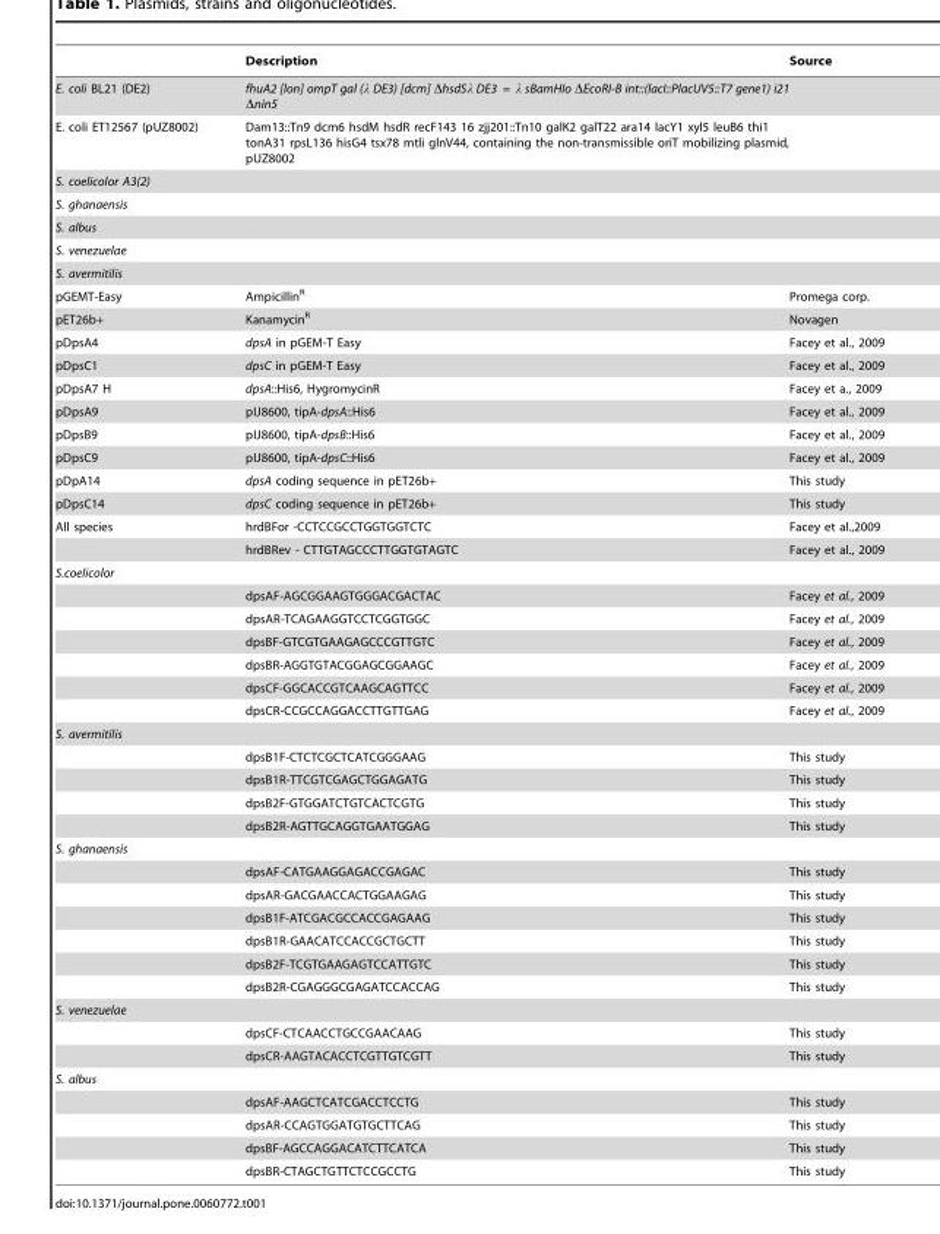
<table><thead><tr><td></td><td>Description</td><td>Source</td></tr></thead><tbody><tr><td>E. coli BL21 (DE2)</td><td>fhuA2 [lon] ompT gal (λ DE3) [dcm] ΔhsdSλ DE3 = λ sBamHIo ΔEcoRI-B int::(lacI::PlacUV5::T7 gene1) i21 Δnin5</td><td></td></tr><tr><td>E. coli ET12567 (pUZ8002)</td><td>Dam13::Tn9 dcm6 hsdM hsdR recF143 16 zjj201::Tn10 galK2 galT22 ara14 lacY1 xyl5 leuB6 thi1 tonA31 rpsL136 hisG4 tsx78 mtli glnV44, containing the non-transmissible oriT mobilizing plasmid, pUZ8002</td><td></td></tr><tr><td colspan="3">S. coelicolor A3(2)</td></tr><tr><td colspan="3">S. ghanaensis</td></tr><tr><td colspan="3">S. albus</td></tr><tr><td colspan="3">S. venezuelae</td></tr><tr><td colspan="3">S. avermitilis</td></tr><tr><td>pGEMT-Easy</td><td>Ampicillin<sup>R</sup></td><td>Promega corp.</td></tr><tr><td>pET26b+</td><td>Kanamycin<sup>R</sup></td><td>Novagen</td></tr><tr><td>pDpsA4</td><td>dpsA in pGEM-T Easy</td><td>Facey et al., 2009</td></tr><tr><td>pDpsC1</td><td>dpsC in pGEM-T Easy</td><td>Facey et al., 2009</td></tr><tr><td>pDpsA7 H</td><td>dpsA::His6, HygromycinR</td><td>Facey et a., 2009</td></tr><tr><td>pDpsA9</td><td>pIJ8600, tipA-dpsA::His6</td><td>Facey et al., 2009</td></tr><tr><td>pDpsB9</td><td>pIJ8600, tipA-dpsB::His6</td><td>Facey et al., 2009</td></tr><tr><td>pDpsC9</td><td>pIJ8600, tipA-dpsC::His6</td><td>Facey et al., 2009</td></tr><tr><td>pDpA14</td><td>dpsA coding sequence in pET26b+</td><td>This study</td></tr><tr><td>pDpsC14</td><td>dpsC coding sequence in pET26b+</td><td>This study</td></tr><tr><td rowspan="2">All species</td><td>hrdBFor -CCTCCGCCTGGTGGTCTC</td><td>Facey et al.,2009</td></tr><tr><td>hrdBRev - CTTGTAGCCCTTGGTGTAGTC</td><td>Facey et al., 2009</td></tr><tr><td colspan="3">S.coelicolor</td></tr><tr><td></td><td>dpsAF-AGCGGAAGTGGGACGACTAC</td><td>Facey et al., 2009</td></tr><tr><td></td><td>dpsAR-TCAGAAGGTCCTCGGTGGC</td><td>Facey et al., 2009</td></tr><tr><td></td><td>dpsBF-GTCGTGAAGAGCCCGTTGTC</td><td>Facey et al., 2009</td></tr><tr><td></td><td>dpsBR-AGGTGTACGGAGCGGAAGC</td><td>Facey et al., 2009</td></tr><tr><td></td><td>dpsCF-GGCACCGTCAAGCAGTTCC</td><td>Facey et al., 2009</td></tr><tr><td></td><td>dpsCR-CCGCCAGGACCTTGTTGAG</td><td>Facey et al., 2009</td></tr><tr><td colspan="3">S. avermitilis</td></tr><tr><td></td><td>dpsB1F-CTCTCGCTCATCGGGAAG</td><td>This study</td></tr><tr><td></td><td>dpsB1R-TTCGTCGAGCTGGAGATG</td><td>This study</td></tr><tr><td></td><td>dpsB2F-GTGGATCTGTCACTCGTG</td><td>This study</td></tr><tr><td></td><td>dpsB2R-AGTTGCAGGTGAATGGAG</td><td>This study</td></tr><tr><td colspan="3">S. ghanaensis</td></tr><tr><td></td><td>dpsAF-CATGAAGGAGACCGAGAC</td><td>This study</td></tr><tr><td></td><td>dpsAR-GACGAACCACTGGAAGAG</td><td>This study</td></tr><tr><td></td><td>dpsB1F-ATCGACGCCACCGAGAAG</td><td>This study</td></tr><tr><td></td><td>dpsB1R-GAACATCCACCGCTGCTT</td><td>This study</td></tr><tr><td></td><td>dpsB2F-TCGTGAAGAGTCCATTGTC</td><td>This study</td></tr><tr><td></td><td>dpsB2R-CGAGGGCGAGATCCACCAG</td><td>This study</td></tr><tr><td colspan="3">S. venezuelae</td></tr><tr><td></td><td>dpsCF-CTCAACCTGCCGAACAAG</td><td>This study</td></tr><tr><td></td><td>dpsCR-AAGTACACCTCGTTGTCGTT</td><td>This study</td></tr><tr><td colspan="3">S. albus</td></tr><tr><td></td><td>dpsAF-AAGCTCATCGACCTCCTG</td><td>This study</td></tr><tr><td></td><td>dpsAR-CCAGTGGATGTGCTTCAG</td><td>This study</td></tr><tr><td></td><td>dpsBF-AGCCAGGACATCTTCATCA</td><td>This study</td></tr><tr><td></td><td>dpsBR-CTAGCTGTTCTCCGCCTG</td><td>This study</td></tr></tbody></table>